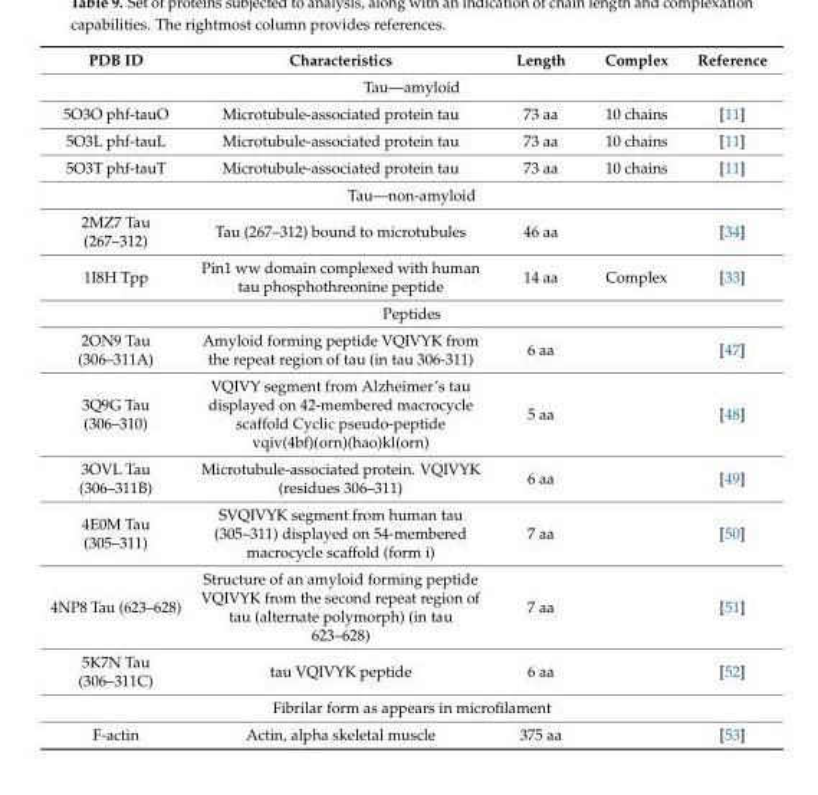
<table><thead><tr><td>PDB ID</td><td>Characteristics</td><td>Length</td><td>Complex</td><td>Reference</td></tr></thead><tbody><tr><td colspan="5">Tau—amyloid</td></tr><tr><td>5O3O phf-tauO</td><td>Microtubule-associated protein tau</td><td>73 aa</td><td>10 chains</td><td>[11]</td></tr><tr><td>5O3L phf-tauL</td><td>Microtubule-associated protein tau</td><td>73 aa</td><td>10 chains</td><td>[11]</td></tr><tr><td>5O3T phf-tauT</td><td>Microtubule-associated protein tau</td><td>73 aa</td><td>10 chains</td><td>[11]</td></tr><tr><td colspan="5">Tau—non-amyloid</td></tr><tr><td>2MZ7 Tau (267–312)</td><td>Tau (267–312) bound to microtubules</td><td>46 aa</td><td></td><td>[34]</td></tr><tr><td>1I8H Tpp</td><td>Pin1 ww domain complexed with human tau phosphothreonine peptide</td><td>14 aa</td><td>Complex</td><td>[33]</td></tr><tr><td colspan="5">Peptides</td></tr><tr><td>2ON9 Tau (306–311A)</td><td>Amyloid forming peptide VQIVYK from the repeat region of tau (in tau 306-311)</td><td>6 aa</td><td></td><td>[47]</td></tr><tr><td>3Q9G Tau (306–310)</td><td>VQIVY segment from Alzheimer’s tau displayed on 42-membered macrocycle scaffold Cyclic pseudo-peptide vqiv(4bf)(orn)(hao)kl(orn)</td><td>5 aa</td><td></td><td>[48]</td></tr><tr><td>3OVL Tau (306–311B)</td><td>Microtubule-associated protein. VQIVYK (residues 306–311)</td><td>6 aa</td><td></td><td>[49]</td></tr><tr><td>4E0M Tau (305–311)</td><td>SVQIVYK segment from human tau (305–311) displayed on 54-membered macrocycle scaffold (form i)</td><td>7 aa</td><td></td><td>[50]</td></tr><tr><td>4NP8 Tau (623–628)</td><td>Structure of an amyloid forming peptide VQIVYK from the second repeat region of tau (alternate polymorph) (in tau 623–628)</td><td>7 aa</td><td></td><td>[51]</td></tr><tr><td>5K7N Tau (306–311C)</td><td>tau VQIVYK peptide</td><td>6 aa</td><td></td><td>[52]</td></tr><tr><td colspan="5">Fibrilar form as appears in microfilament</td></tr><tr><td>F-actin</td><td>Actin, alpha skeletal muscle</td><td>375 aa</td><td></td><td>[53]</td></tr></tbody></table>